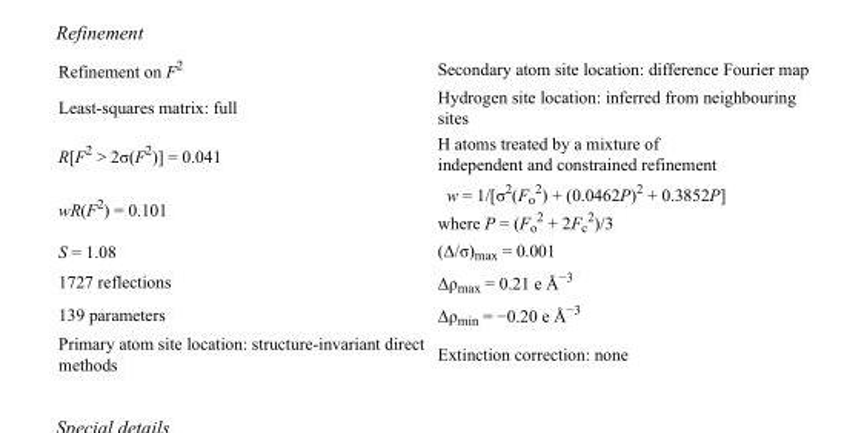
<table><tbody><tr><td>Refinement on F<sup>2</sup></td><td>Secondary atom site location: difference Fourier map</td></tr><tr><td>Least-squares matrix: full</td><td>Hydrogen site location: inferred from neighbouring sites</td></tr><tr><td>R[F<sup>2</sup> &gt; 2σ(F<sup>2</sup>)] = 0.041</td><td>H atoms treated by a mixture of independent and constrained refinement</td></tr><tr><td>wR(F<sup>2</sup>) = 0.101</td><td>w = 1/[σ<sup>2</sup>(F<sub>o</sub> <sup>2</sup>) + (0.0462P)<sup>2</sup> + 0.3852P] where P = (F<sub>o</sub> <sup>2</sup> + 2F<sub>c</sub> <sup>2</sup>)/3</td></tr><tr><td>S = 1.08</td><td>(Δ/σ)<sub>max</sub> = 0.001</td></tr><tr><td>1727 reflections</td><td>Δρ<sub>max</sub> = 0.21 e Å<sup>−3</sup></td></tr><tr><td>139 parameters</td><td>Δρ<sub>min</sub> = −0.20 e Å<sup>−3</sup></td></tr><tr><td>Primary atom site location: structure-invariant direct methods</td><td>Extinction correction: none</td></tr></tbody></table>